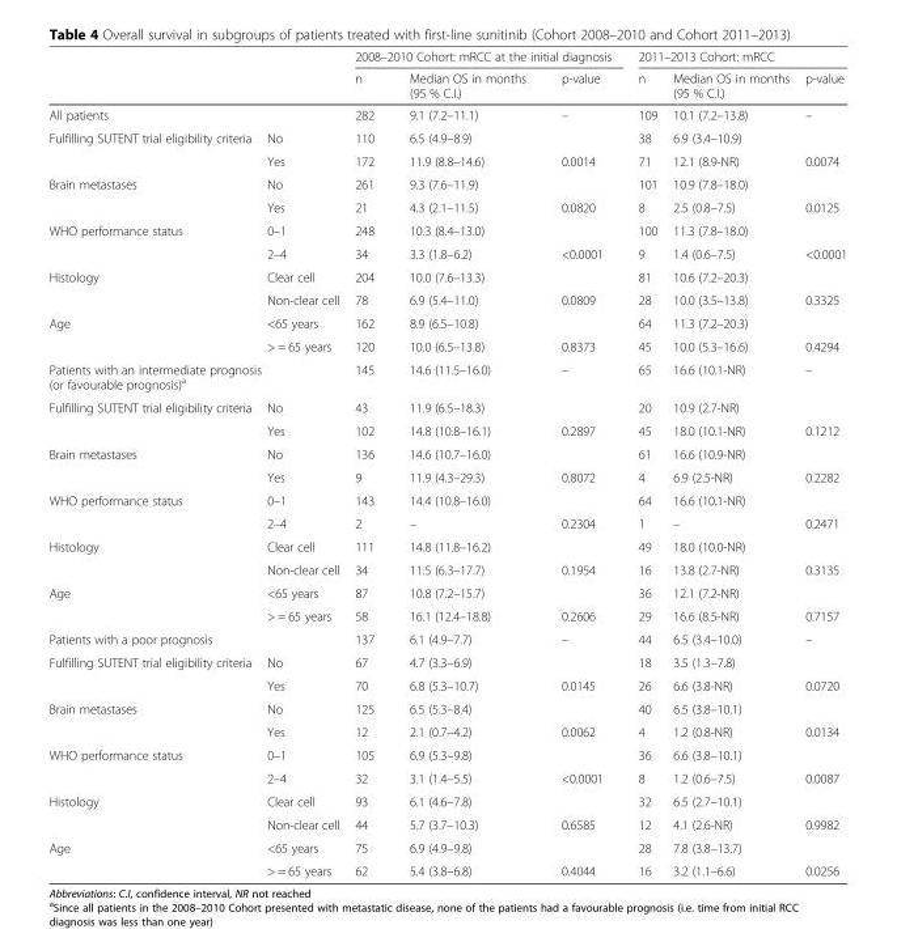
<table><thead><tr><td rowspan="2"></td><td rowspan="2"></td><td colspan="3">2008–2010 Cohort: mRCC at the initial diagnosis</td><td colspan="3">2011–2013 Cohort: mRCC</td></tr><tr><td>n</td><td>Median OS in months (95 % C.I.)</td><td>p-value</td><td>n</td><td>Median OS in months (95 % C.I.)</td><td>p-value</td></tr></thead><tbody><tr><td colspan="2">All patients</td><td>282</td><td>9.1 (7.2–11.1)</td><td>–</td><td>109</td><td>10.1 (7.2–13.8)</td><td>–</td></tr><tr><td rowspan="2">Fulfilling SUTENT trial eligibility criteria</td><td>No</td><td>110</td><td>6.5 (4.9–8.9)</td><td></td><td>38</td><td>6.9 (3.4–10.9)</td><td></td></tr><tr><td>Yes</td><td>172</td><td>11.9 (8.8–14.6)</td><td>0.0014</td><td>71</td><td>12.1 (8.9-NR)</td><td>0.0074</td></tr><tr><td rowspan="2">Brain metastases</td><td>No</td><td>261</td><td>9.3 (7.6–11.9)</td><td></td><td>101</td><td>10.9 (7.8–18.0)</td><td></td></tr><tr><td>Yes</td><td>21</td><td>4.3 (2.1–11.5)</td><td>0.0820</td><td>8</td><td>2.5 (0.8–7.5)</td><td>0.0125</td></tr><tr><td rowspan="2">WHO performance status</td><td>0–1</td><td>248</td><td>10.3 (8.4–13.0)</td><td></td><td>100</td><td>11.3 (7.8–18.0)</td><td></td></tr><tr><td>2–4</td><td>34</td><td>3.3 (1.8–6.2)</td><td>&lt;0.0001</td><td>9</td><td>1.4 (0.6–7.5)</td><td>&lt;0.0001</td></tr><tr><td rowspan="2">Histology</td><td>Clear cell</td><td>204</td><td>10.0 (7.6–13.3)</td><td></td><td>81</td><td>10.6 (7.2–20.3)</td><td></td></tr><tr><td>Non-clear cell</td><td>78</td><td>6.9 (5.4–11.0)</td><td>0.0809</td><td>28</td><td>10.0 (3.5–13.8)</td><td>0.3325</td></tr><tr><td rowspan="2">Age</td><td>&lt;65 years</td><td>162</td><td>8.9 (6.5–10.8)</td><td></td><td>64</td><td>11.3 (7.2–20.3)</td><td></td></tr><tr><td>&gt; = 65 years</td><td>120</td><td>10.0 (6.5–13.8)</td><td>0.8373</td><td>45</td><td>10.0 (5.3–16.6)</td><td>0.4294</td></tr><tr><td colspan="2">Patients with an intermediate prognosis (or favourable prognosis)<sup>a</sup></td><td>145</td><td>14.6 (11.5–16.0)</td><td>–</td><td>65</td><td>16.6 (10.1-NR)</td><td>–</td></tr><tr><td rowspan="2">Fulfilling SUTENT trial eligibility criteria</td><td>No</td><td>43</td><td>11.9 (6.5–18.3)</td><td></td><td>20</td><td>10.9 (2.7-NR)</td><td></td></tr><tr><td>Yes</td><td>102</td><td>14.8 (10.8–16.1)</td><td>0.2897</td><td>45</td><td>18.0 (10.1-NR)</td><td>0.1212</td></tr><tr><td rowspan="2">Brain metastases</td><td>No</td><td>136</td><td>14.6 (10.7–16.0)</td><td></td><td>61</td><td>16.6 (10.9-NR)</td><td></td></tr><tr><td>Yes</td><td>9</td><td>11.9 (4.3–29.3)</td><td>0.8072</td><td>4</td><td>6.9 (2.5-NR)</td><td>0.2282</td></tr><tr><td rowspan="2">WHO performance status</td><td>0–1</td><td>143</td><td>14.4 (10.8–16.0)</td><td></td><td>64</td><td>16.6 (10.1-NR)</td><td></td></tr><tr><td>2–4</td><td>2</td><td>–</td><td>0.2304</td><td>1</td><td>–</td><td>0.2471</td></tr><tr><td rowspan="2">Histology</td><td>Clear cell</td><td>111</td><td>14.8 (11.8–16.2)</td><td></td><td>49</td><td>18.0 (10.0-NR)</td><td></td></tr><tr><td>Non-clear cell</td><td>34</td><td>11.5 (6.3–17.7)</td><td>0.1954</td><td>16</td><td>13.8 (2.7-NR)</td><td>0.3135</td></tr><tr><td rowspan="2">Age</td><td>&lt;65 years</td><td>87</td><td>10.8 (7.2–15.7)</td><td></td><td>36</td><td>12.1 (7.2-NR)</td><td></td></tr><tr><td>&gt; = 65 years</td><td>58</td><td>16.1 (12.4–18.8)</td><td>0.2606</td><td>29</td><td>16.6 (8.5-NR)</td><td>0.7157</td></tr><tr><td colspan="2">Patients with a poor prognosis</td><td>137</td><td>6.1 (4.9–7.7)</td><td>–</td><td>44</td><td>6.5 (3.4–10.0)</td><td>–</td></tr><tr><td rowspan="2">Fulfilling SUTENT trial eligibility criteria</td><td>No</td><td>67</td><td>4.7 (3.3–6.9)</td><td></td><td>18</td><td>3.5 (1.3–7.8)</td><td></td></tr><tr><td>Yes</td><td>70</td><td>6.8 (5.3–10.7)</td><td>0.0145</td><td>26</td><td>6.6 (3.8-NR)</td><td>0.0720</td></tr><tr><td rowspan="2">Brain metastases</td><td>No</td><td>125</td><td>6.5 (5.3–8.4)</td><td></td><td>40</td><td>6.5 (3.8–10.1)</td><td></td></tr><tr><td>Yes</td><td>12</td><td>2.1 (0.7–4.2)</td><td>0.0062</td><td>4</td><td>1.2 (0.8-NR)</td><td>0.0134</td></tr><tr><td rowspan="2">WHO performance status</td><td>0–1</td><td>105</td><td>6.9 (5.3–9.8)</td><td></td><td>36</td><td>6.6 (3.8–10.1)</td><td></td></tr><tr><td>2–4</td><td>32</td><td>3.1 (1.4–5.5)</td><td>&lt;0.0001</td><td>8</td><td>1.2 (0.6–7.5)</td><td>0.0087</td></tr><tr><td rowspan="2">Histology</td><td>Clear cell</td><td>93</td><td>6.1 (4.6–7.8)</td><td></td><td>32</td><td>6.5 (2.7–10.1)</td><td></td></tr><tr><td>Non-clear cell</td><td>44</td><td>5.7 (3.7–10.3)</td><td>0.6585</td><td>12</td><td>4.1 (2.6-NR)</td><td>0.9982</td></tr><tr><td rowspan="2">Age</td><td>&lt;65 years</td><td>75</td><td>6.9 (4.9–9.8)</td><td></td><td>28</td><td>7.8 (3.8–13.7)</td><td></td></tr><tr><td>&gt; = 65 years</td><td>62</td><td>5.4 (3.8–6.8)</td><td>0.4044</td><td>16</td><td>3.2 (1.1–6.6)</td><td>0.0256</td></tr></tbody></table>